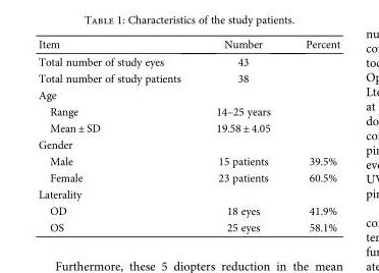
<table><thead><tr><td>Item</td><td>Number</td><td>Percent</td></tr></thead><tbody><tr><td>Total number of study eyes</td><td>43</td><td></td></tr><tr><td>Total number of study patients</td><td>38</td><td></td></tr><tr><td colspan="3">Age</td></tr><tr><td>Range</td><td>14–25 years</td><td></td></tr><tr><td>Mean ± SD</td><td>19.58 ± 4.05</td><td></td></tr><tr><td colspan="3">Gender</td></tr><tr><td>Male</td><td>15 patients</td><td>39.5%</td></tr><tr><td>Female</td><td>23 patients</td><td>60.5%</td></tr><tr><td colspan="3">Laterality</td></tr><tr><td>OD</td><td>18 eyes</td><td>41.9%</td></tr><tr><td>OS</td><td>25 eyes</td><td>58.1%</td></tr></tbody></table>